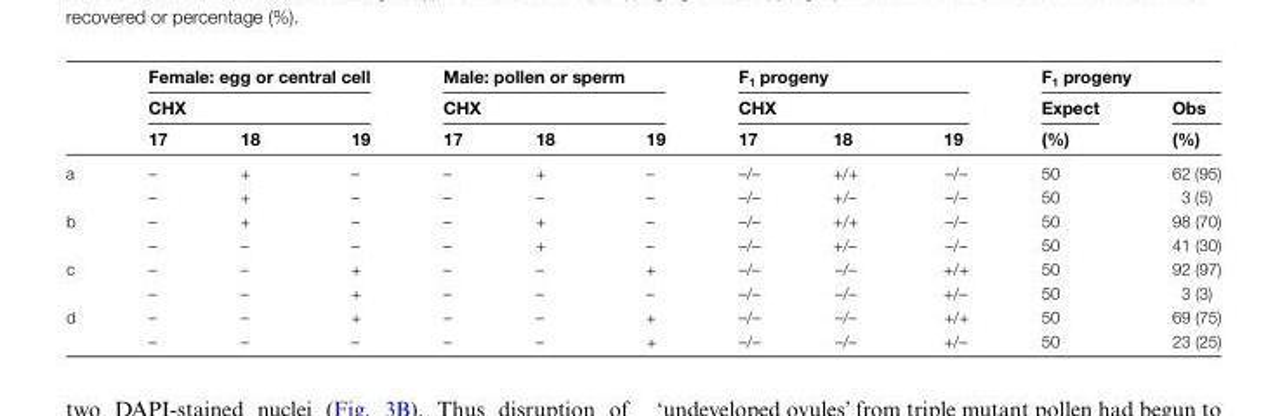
<table><thead><tr><td rowspan="3"></td><td rowspan="2" colspan="3">Female: egg or central cell CHX</td><td rowspan="2" colspan="3">Male: pollen or sperm CHX</td><td rowspan="2" colspan="3">F<sub>1</sub> progeny CHX</td><td colspan="2">F<sub>1</sub> progeny</td></tr><tr><td rowspan="2">Expect (%)</td><td rowspan="2">Obs (%)</td></tr><tr><td>17</td><td>18</td><td>19</td><td>17</td><td>18</td><td>19</td><td>17</td><td>18</td><td>19</td></tr></thead><tbody><tr><td rowspan="2">a</td><td>–</td><td>+</td><td>–</td><td>–</td><td>+</td><td>–</td><td>–/–</td><td>+/+</td><td>–/–</td><td>50</td><td>62 (95)</td></tr><tr><td>–</td><td>+</td><td>–</td><td>–</td><td>–</td><td>–</td><td>–/–</td><td>+/–</td><td>–/–</td><td>50</td><td>3 (5)</td></tr><tr><td rowspan="2">b</td><td>–</td><td>+</td><td>–</td><td>–</td><td>+</td><td>–</td><td>–/–</td><td>+/+</td><td>–/–</td><td>50</td><td>98 (70)</td></tr><tr><td>–</td><td>–</td><td>–</td><td>–</td><td>+</td><td>–</td><td>–/–</td><td>+/–</td><td>–/–</td><td>50</td><td>41 (30)</td></tr><tr><td rowspan="2">c</td><td>–</td><td>–</td><td>+</td><td>–</td><td>–</td><td>+</td><td>–/–</td><td>–/–</td><td>+/+</td><td>50</td><td>92 (97)</td></tr><tr><td>–</td><td>–</td><td>+</td><td>–</td><td>–</td><td>–</td><td>–/–</td><td>–/–</td><td>+/–</td><td>50</td><td>3 (3)</td></tr><tr><td rowspan="2">d</td><td>–</td><td>–</td><td>+</td><td>–</td><td>–</td><td>+</td><td>–/–</td><td>–/–</td><td>+/+</td><td>50</td><td>69 (75)</td></tr><tr><td>–</td><td>–</td><td>–</td><td>–</td><td>–</td><td>+</td><td>–/–</td><td>–/–</td><td>+/–</td><td>50</td><td>23 (25)</td></tr></tbody></table>